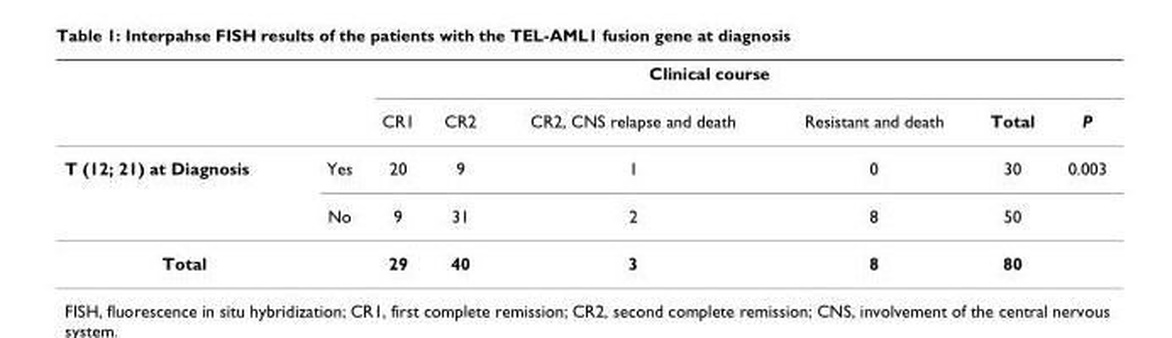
<table><thead><tr><td rowspan="2"></td><td rowspan="2"></td><td colspan="5">Clinical course</td><td rowspan="2">P</td></tr><tr><td>CR1</td><td>CR2</td><td>CR2, CNS relapse and death</td><td>Resistant and death</td><td>Total</td></tr></thead><tbody><tr><td rowspan="2">T (12; 21) at Diagnosis</td><td>Yes</td><td>20</td><td>9</td><td>1</td><td>0</td><td>30</td><td>0.003</td></tr><tr><td>No</td><td>9</td><td>31</td><td>2</td><td>8</td><td>50</td><td></td></tr><tr><td>Total</td><td></td><td>29</td><td>40</td><td>3</td><td>8</td><td>80</td><td></td></tr></tbody></table>